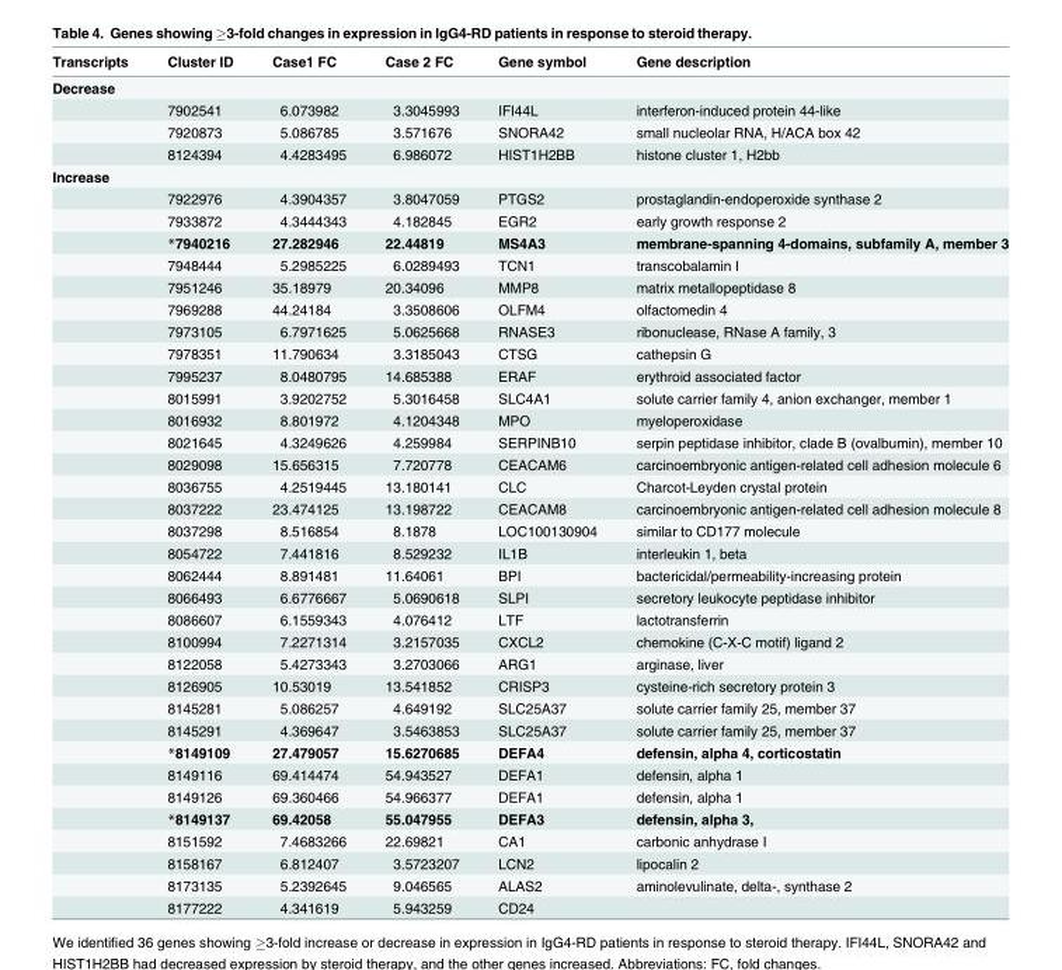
<table><thead><tr><td>Transcripts</td><td>Cluster ID</td><td>Case1 FC</td><td>Case 2 FC</td><td>Gene symbol</td><td>Gene description</td></tr></thead><tbody><tr><td colspan="6">Decrease</td></tr><tr><td></td><td>7902541</td><td>6.073982</td><td>3.3045993</td><td>IFI44L</td><td>interferon-induced protein 44-like</td></tr><tr><td></td><td>7920873</td><td>5.086785</td><td>3.571676</td><td>SNORA42</td><td>small nucleolar RNA, H/ACA box 42</td></tr><tr><td></td><td>8124394</td><td>4.4283495</td><td>6.986072</td><td>HIST1H2BB</td><td>histone cluster 1, H2bb</td></tr><tr><td colspan="6">Increase</td></tr><tr><td></td><td>7922976</td><td>4.3904357</td><td>3.8047059</td><td>PTGS2</td><td>prostaglandin-endoperoxide synthase 2</td></tr><tr><td></td><td>7933872</td><td>4.3444343</td><td>4.182845</td><td>EGR2</td><td>early growth response 2</td></tr><tr><td></td><td>*7940216</td><td>27.282946</td><td>22.44819</td><td>MS4A3</td><td>membrane-spanning 4-domains, subfamily A, member 3</td></tr><tr><td></td><td>7948444</td><td>5.2985225</td><td>6.0289493</td><td>TCN1</td><td>transcobalamin I</td></tr><tr><td></td><td>7951246</td><td>35.18979</td><td>20.34096</td><td>MMP8</td><td>matrix metallopeptidase 8</td></tr><tr><td></td><td>7969288</td><td>44.24184</td><td>3.3508606</td><td>OLFM4</td><td>olfactomedin 4</td></tr><tr><td></td><td>7973105</td><td>6.7971625</td><td>5.0625668</td><td>RNASE3</td><td>ribonuclease, RNase A family, 3</td></tr><tr><td></td><td>7978351</td><td>11.790634</td><td>3.3185043</td><td>CTSG</td><td>cathepsin G</td></tr><tr><td></td><td>7995237</td><td>8.0480795</td><td>14.685388</td><td>ERAF</td><td>erythroid associated factor</td></tr><tr><td></td><td>8015991</td><td>3.9202752</td><td>5.3016458</td><td>SLC4A1</td><td>solute carrier family 4, anion exchanger, member 1</td></tr><tr><td></td><td>8016932</td><td>8.801972</td><td>4.1204348</td><td>MPO</td><td>myeloperoxidase</td></tr><tr><td></td><td>8021645</td><td>4.3249626</td><td>4.259984</td><td>SERPINB10</td><td>serpin peptidase inhibitor, clade B (ovalbumin), member 10</td></tr><tr><td></td><td>8029098</td><td>15.656315</td><td>7.720778</td><td>CEACAM6</td><td>carcinoembryonic antigen-related cell adhesion molecule 6</td></tr><tr><td></td><td>8036755</td><td>4.2519445</td><td>13.180141</td><td>CLC</td><td>Charcot-Leyden crystal protein</td></tr><tr><td></td><td>8037222</td><td>23.474125</td><td>13.198722</td><td>CEACAM8</td><td>carcinoembryonic antigen-related cell adhesion molecule 8</td></tr><tr><td></td><td>8037298</td><td>8.516854</td><td>8.1878</td><td>LOC100130904</td><td>similar to CD177 molecule</td></tr><tr><td></td><td>8054722</td><td>7.441816</td><td>8.529232</td><td>IL1B</td><td>interleukin 1, beta</td></tr><tr><td></td><td>8062444</td><td>8.891481</td><td>11.64061</td><td>BPI</td><td>bactericidal/permeability-increasing protein</td></tr><tr><td></td><td>8066493</td><td>6.6776667</td><td>5.0690618</td><td>SLPI</td><td>secretory leukocyte peptidase inhibitor</td></tr><tr><td></td><td>8086607</td><td>6.1559343</td><td>4.076412</td><td>LTF</td><td>lactotransferrin</td></tr><tr><td></td><td>8100994</td><td>7.2271314</td><td>3.2157035</td><td>CXCL2</td><td>chemokine (C-X-C motif) ligand 2</td></tr><tr><td></td><td>8122058</td><td>5.4273343</td><td>3.2703066</td><td>ARG1</td><td>arginase, liver</td></tr><tr><td></td><td>8126905</td><td>10.53019</td><td>13.541852</td><td>CRISP3</td><td>cysteine-rich secretory protein 3</td></tr><tr><td></td><td>8145281</td><td>5.086257</td><td>4.649192</td><td>SLC25A37</td><td>solute carrier family 25, member 37</td></tr><tr><td></td><td>8145291</td><td>4.369647</td><td>3.5463853</td><td>SLC25A37</td><td>solute carrier family 25, member 37</td></tr><tr><td></td><td>*8149109</td><td>27.479057</td><td>15.6270685</td><td>DEFA4</td><td>defensin, alpha 4, corticostatin</td></tr><tr><td></td><td>8149116</td><td>69.414474</td><td>54.943527</td><td>DEFA1</td><td>defensin, alpha 1</td></tr><tr><td></td><td>8149126</td><td>69.360466</td><td>54.966377</td><td>DEFA1</td><td>defensin, alpha 1</td></tr><tr><td></td><td>*8149137</td><td>69.42058</td><td>55.047955</td><td>DEFA3</td><td>defensin, alpha 3,</td></tr><tr><td></td><td>8151592</td><td>7.4683266</td><td>22.69821</td><td>CA1</td><td>carbonic anhydrase I</td></tr><tr><td></td><td>8158167</td><td>6.812407</td><td>3.5723207</td><td>LCN2</td><td>lipocalin 2</td></tr><tr><td></td><td>8173135</td><td>5.2392645</td><td>9.046565</td><td>ALAS2</td><td>aminolevulinate, delta-, synthase 2</td></tr><tr><td></td><td>8177222</td><td>4.341619</td><td>5.943259</td><td>CD24</td><td></td></tr></tbody></table>